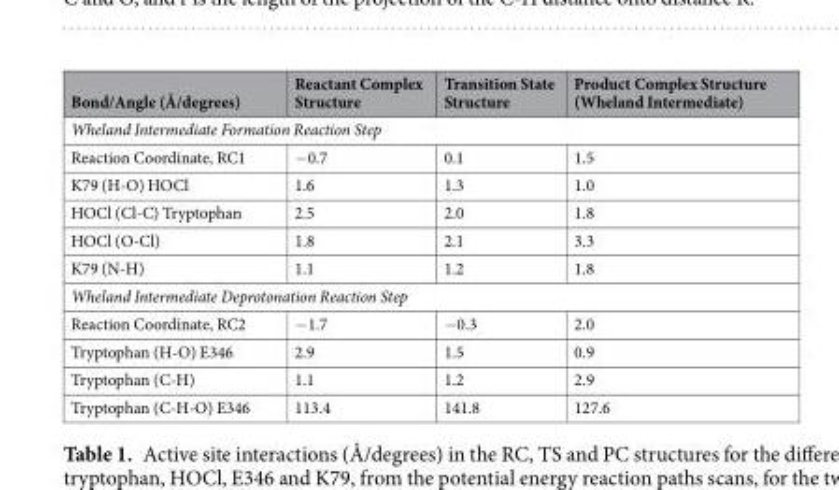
<table><thead><tr><td>Bond/Angle (Å/degrees)</td><td>Reactant Complex Structure</td><td>Transition State Structure</td><td>Product Complex Structure (Wheland Intermediate)</td></tr></thead><tbody><tr><td colspan="4">Wheland Intermediate Formation Reaction Step</td></tr><tr><td>Reaction Coordinate, RC1</td><td>−0.7</td><td>0.1</td><td>1.5</td></tr><tr><td>K79 (H-O) HOCl</td><td>1.6</td><td>1.3</td><td>1.0</td></tr><tr><td>HOCl (Cl-C) Tryptophan</td><td>2.5</td><td>2.0</td><td>1.8</td></tr><tr><td>HOCl (O-Cl)</td><td>1.8</td><td>2.1</td><td>3.3</td></tr><tr><td>K79 (N-H)</td><td>1.1</td><td>1.2</td><td>1.8</td></tr><tr><td colspan="4">Wheland Intermediate Deprotonation Reaction Step</td></tr><tr><td>Reaction Coordinate, RC2</td><td>−1.7</td><td>−0.3</td><td>2.0</td></tr><tr><td>Tryptophan (H-O) E346</td><td>2.9</td><td>1.5</td><td>0.9</td></tr><tr><td>Tryptophan (C-H)</td><td>1.1</td><td>1.2</td><td>2.9</td></tr><tr><td>Tryptophan (C-H-O) E346</td><td>113.4</td><td>141.8</td><td>127.6</td></tr></tbody></table>